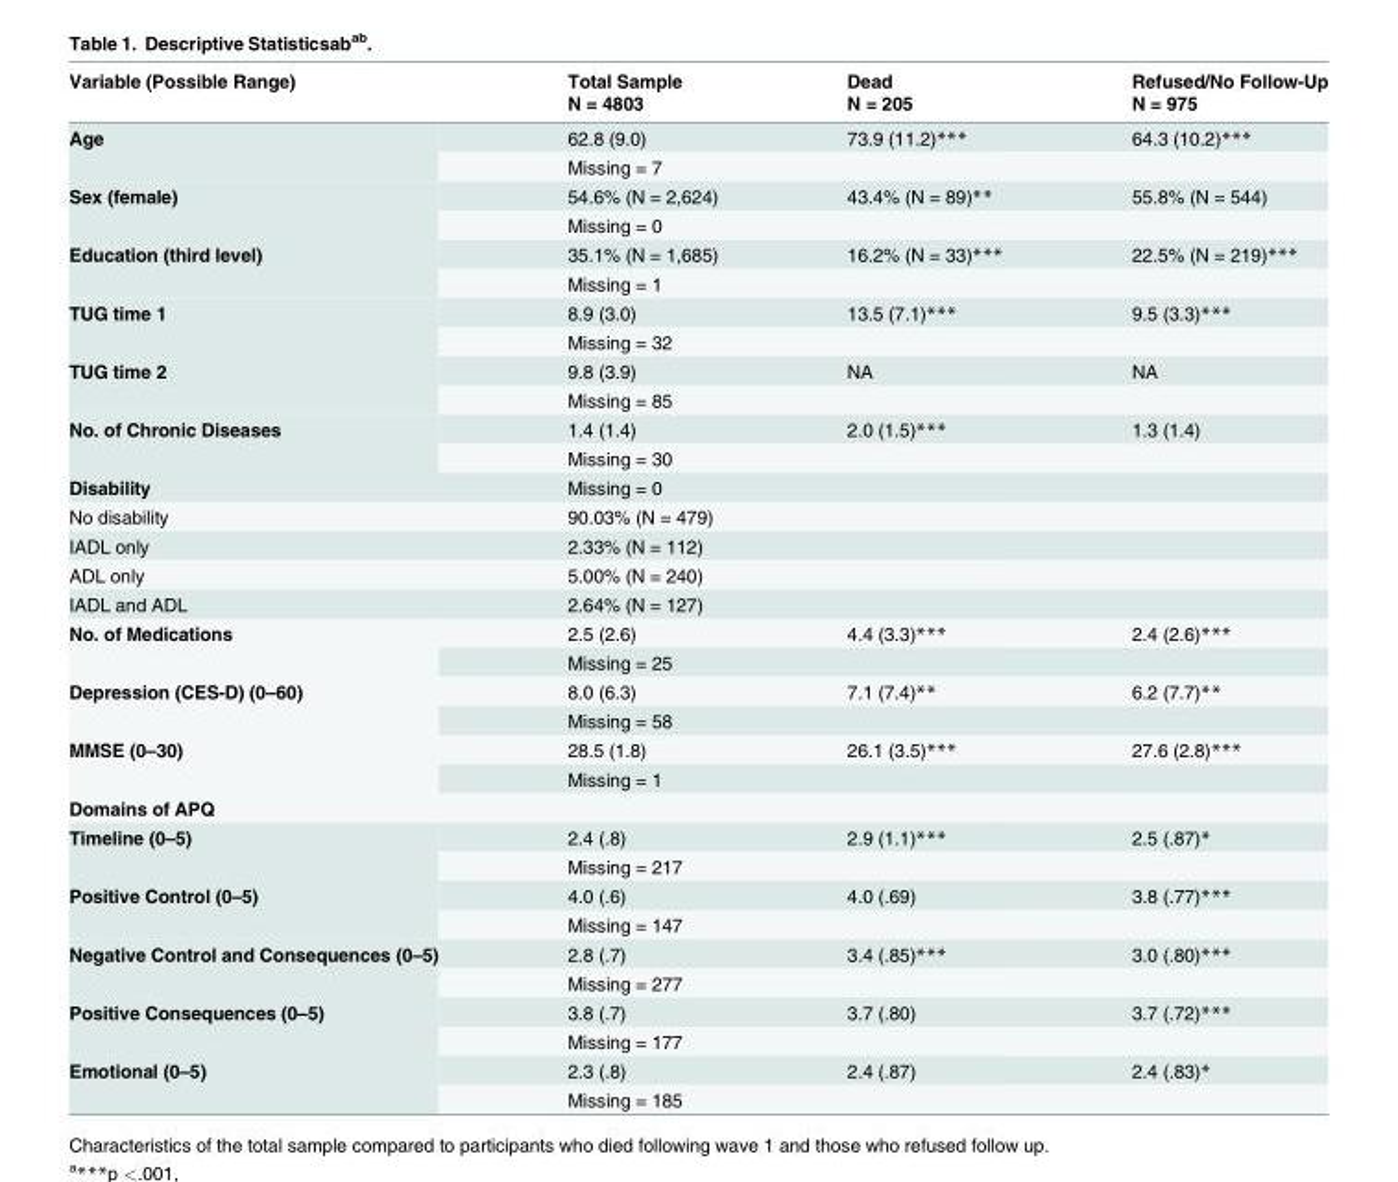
<table><thead><tr><td rowspan="2">Variable (Possible Range)</td><td rowspan="2">Total Sample N = 4803</td><td rowspan="2">Dead N = 205</td><td rowspan="2">Refused/No Follow-Up N = 975</td></tr><tr></tr></thead><tbody><tr><td rowspan="2">Age</td><td>62.8 (9.0)</td><td>73.9 (11.2)***</td><td>64.3 (10.2)***</td></tr><tr><td>Missing = 7</td><td></td><td></td></tr><tr><td rowspan="2">Sex (female)</td><td>54.6% (N = 2,624)</td><td>43.4% (N = 89)**</td><td>55.8% (N = 544)</td></tr><tr><td>Missing = 0</td><td></td><td></td></tr><tr><td rowspan="2">Education (third level)</td><td>35.1% (N = 1,685)</td><td>16.2% (N = 33)***</td><td>22.5% (N = 219)***</td></tr><tr><td>Missing = 1</td><td></td><td></td></tr><tr><td rowspan="2">TUG time 1</td><td>8.9 (3.0)</td><td>13.5 (7.1)***</td><td>9.5 (3.3)***</td></tr><tr><td>Missing = 32</td><td></td><td></td></tr><tr><td rowspan="2">TUG time 2</td><td>9.8 (3.9)</td><td>NA</td><td>NA</td></tr><tr><td>Missing = 85</td><td></td><td></td></tr><tr><td rowspan="2">No. of Chronic Diseases</td><td>1.4 (1.4)</td><td>2.0 (1.5)***</td><td>1.3 (1.4)</td></tr><tr><td>Missing = 30</td><td></td><td></td></tr><tr><td>Disability</td><td>Missing = 0</td><td></td><td></td></tr><tr><td>No disability</td><td>90.03% (N = 479)</td><td></td><td></td></tr><tr><td>IADL only</td><td>2.33% (N = 112)</td><td></td><td></td></tr><tr><td>ADL only</td><td>5.00% (N = 240)</td><td></td><td></td></tr><tr><td>IADL and ADL</td><td>2.64% (N = 127)</td><td></td><td></td></tr><tr><td rowspan="2">No. of Medications</td><td>2.5 (2.6)</td><td>4.4 (3.3)***</td><td>2.4 (2.6)***</td></tr><tr><td>Missing = 25</td><td></td><td></td></tr><tr><td rowspan="2">Depression (CES-D) (0–60)</td><td>8.0 (6.3)</td><td>7.1 (7.4)**</td><td>6.2 (7.7)**</td></tr><tr><td>Missing = 58</td><td></td><td></td></tr><tr><td rowspan="2">MMSE (0–30)</td><td>28.5 (1.8)</td><td>26.1 (3.5)***</td><td>27.6 (2.8)***</td></tr><tr><td>Missing = 1</td><td></td><td></td></tr><tr><td colspan="4">Domains of APQ</td></tr><tr><td rowspan="2">Timeline (0–5)</td><td>2.4 (.8)</td><td>2.9 (1.1)***</td><td>2.5 (.87)*</td></tr><tr><td>Missing = 217</td><td></td><td></td></tr><tr><td rowspan="2">Positive Control (0–5)</td><td>4.0 (.6)</td><td>4.0 (.69)</td><td>3.8 (.77)***</td></tr><tr><td>Missing = 147</td><td></td><td></td></tr><tr><td rowspan="2">Negative Control and Consequences (0–5)</td><td>2.8 (.7)</td><td>3.4 (.85)***</td><td>3.0 (.80)***</td></tr><tr><td>Missing = 277</td><td></td><td></td></tr><tr><td rowspan="2">Positive Consequences (0–5)</td><td>3.8 (.7)</td><td>3.7 (.80)</td><td>3.7 (.72)***</td></tr><tr><td>Missing = 177</td><td></td><td></td></tr><tr><td rowspan="2">Emotional (0–5)</td><td>2.3 (.8)</td><td>2.4 (.87)</td><td>2.4 (.83)*</td></tr><tr><td>Missing = 185</td><td></td><td></td></tr></tbody></table>